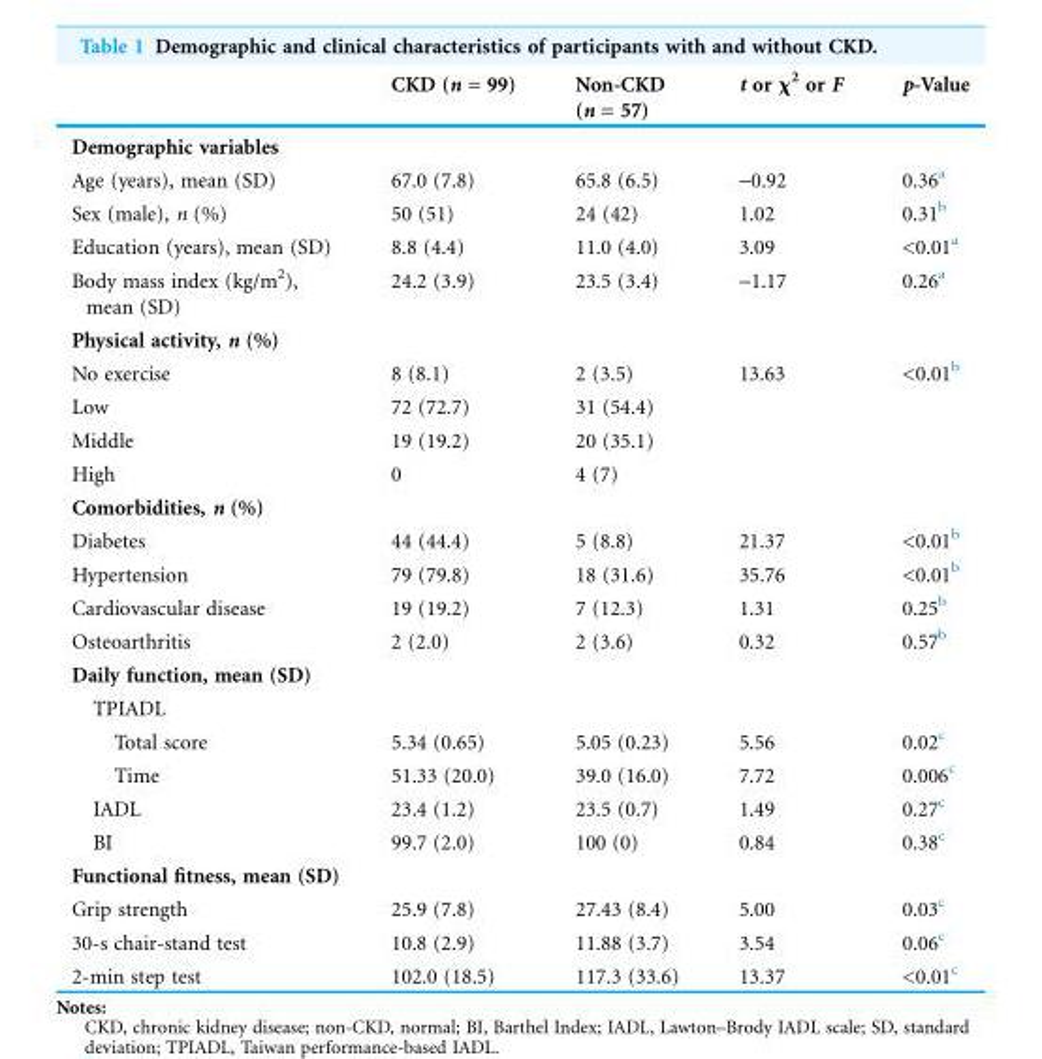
<table><thead><tr><td></td><td>CKD (n = 99)</td><td>Non-CKD (n = 57)</td><td>t or χ<sup>2</sup> or F</td><td>p-Value</td></tr></thead><tbody><tr><td colspan="5">Demographic variables</td></tr><tr><td>Age (years), mean (SD)</td><td>67.0 (7.8)</td><td>65.8 (6.5)</td><td>-0.92</td><td>0.36<sup>a</sup></td></tr><tr><td>Sex (male), n (%)</td><td>50 (51)</td><td>24 (42)</td><td>1.02</td><td>0.31<sup>b</sup></td></tr><tr><td>Education (years), mean (SD)</td><td>8.8 (4.4)</td><td>11.0 (4.0)</td><td>3.09</td><td>&lt;0.01<sup>a</sup></td></tr><tr><td>Body mass index (kg/m<sup>2</sup>), mean (SD)</td><td>24.2 (3.9)</td><td>23.5 (3.4)</td><td>-1.17</td><td>0.26<sup>a</sup></td></tr><tr><td colspan="5">Physical activity, n (%)</td></tr><tr><td>No exercise</td><td>8 (8.1)</td><td>2 (3.5)</td><td rowspan="4">13.63</td><td rowspan="4">&lt;0.01<sup>b</sup></td></tr><tr><td>Low</td><td>72 (72.7)</td><td>31 (54.4)</td></tr><tr><td>Middle</td><td>19 (19.2)</td><td>20 (35.1)</td></tr><tr><td>High</td><td>0</td><td>4 (7)</td></tr><tr><td colspan="5">Comorbidities, n (%)</td></tr><tr><td>Diabetes</td><td>44 (44.4)</td><td>5 (8.8)</td><td>21.37</td><td>&lt;0.01<sup>b</sup></td></tr><tr><td>Hypertension</td><td>79 (79.8)</td><td>18 (31.6)</td><td>35.76</td><td>&lt;0.01<sup>b</sup></td></tr><tr><td>Cardiovascular disease</td><td>19 (19.2)</td><td>7 (12.3)</td><td>1.31</td><td>0.25<sup>b</sup></td></tr><tr><td>Osteoarthritis</td><td>2 (2.0)</td><td>2 (3.6)</td><td>0.32</td><td>0.57<sup>b</sup></td></tr><tr><td colspan="5">Daily function, mean (SD)</td></tr><tr><td colspan="5">TPIADL</td></tr><tr><td>Total score</td><td>5.34 (0.65)</td><td>5.05 (0.23)</td><td>5.56</td><td>0.02<sup>c</sup></td></tr><tr><td>Time</td><td>51.33 (20.0)</td><td>39.0 (16.0)</td><td>7.72</td><td>0.006<sup>c</sup></td></tr><tr><td>IADL</td><td>23.4 (1.2)</td><td>23.5 (0.7)</td><td>1.49</td><td>0.27<sup>c</sup></td></tr><tr><td>BI</td><td>99.7 (2.0)</td><td>100 (0)</td><td>0.84</td><td>0.38<sup>c</sup></td></tr><tr><td colspan="5">Functional fitness, mean (SD)</td></tr><tr><td>Grip strength</td><td>25.9 (7.8)</td><td>27.43 (8.4)</td><td>5.00</td><td>0.03<sup>c</sup></td></tr><tr><td>30-s chair-stand test</td><td>10.8 (2.9)</td><td>11.88 (3.7)</td><td>3.54</td><td>0.06<sup>c</sup></td></tr><tr><td>2-min step test</td><td>102.0 (18.5)</td><td>117.3 (33.6)</td><td>13.37</td><td>&lt;0.01<sup>c</sup></td></tr></tbody></table>